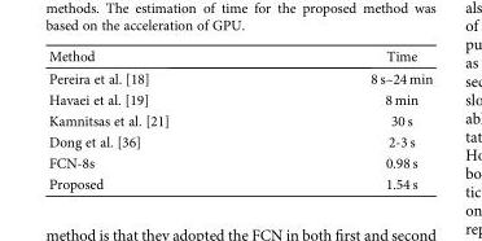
<table><thead><tr><td>Method</td><td>Time</td></tr></thead><tbody><tr><td>Pereira et al. [18]</td><td>8 s–24 min</td></tr><tr><td>Havaei et al. [19]</td><td>8 min</td></tr><tr><td>Kamnitsas et al. [21]</td><td>30 s</td></tr><tr><td>Dong et al. [36]</td><td>2-3 s</td></tr><tr><td>FCN-8s</td><td>0.98 s</td></tr><tr><td>Proposed</td><td>1.54 s</td></tr></tbody></table>